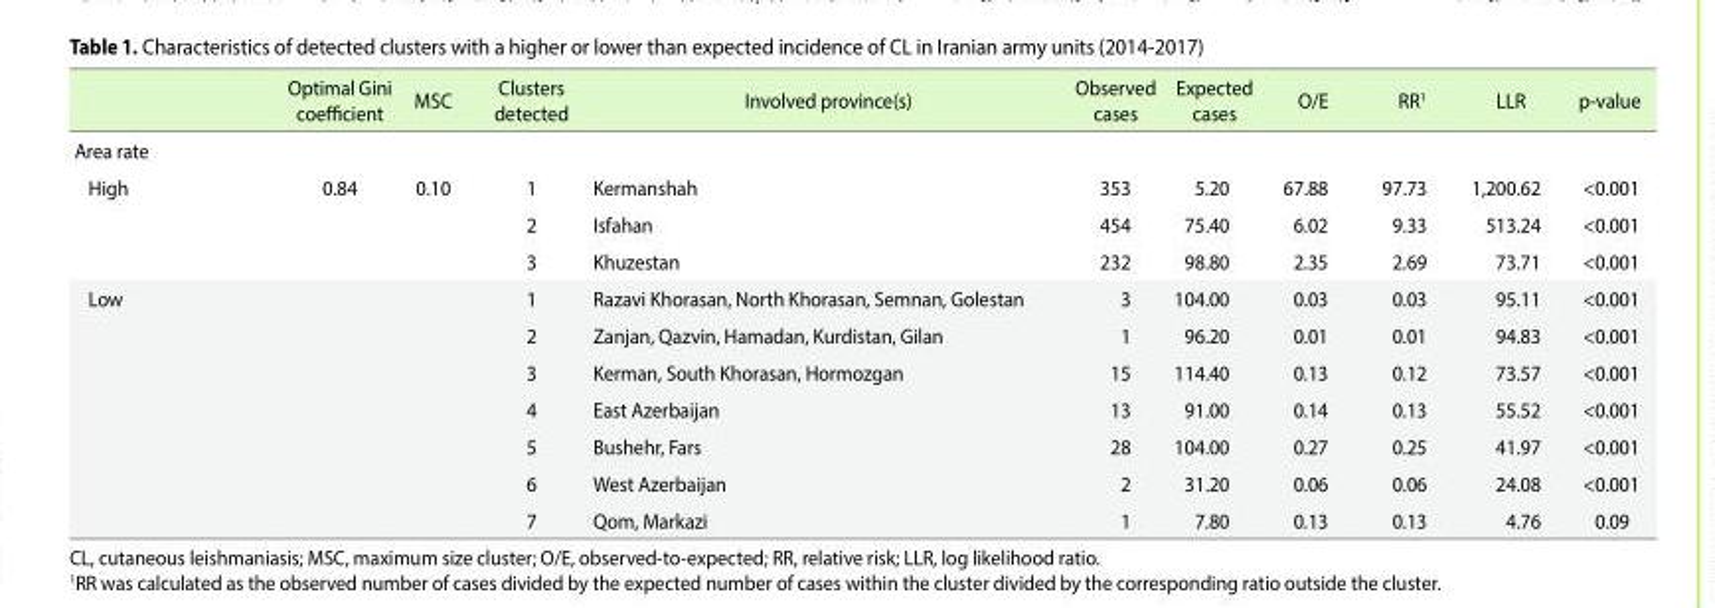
<table><thead><tr><td></td><td>Optimal Gini coefficient</td><td>MSC</td><td>Clusters detected</td><td>Involved province(s)</td><td>Observed cases</td><td>Expected cases</td><td>O/E</td><td>RR<sup>1</sup></td><td>LLR</td><td>p-value</td></tr></thead><tbody><tr><td colspan="11">Area rate</td></tr><tr><td rowspan="3">High</td><td>0.84</td><td>0.10</td><td>1</td><td>Kermanshah</td><td>353</td><td>5.20</td><td>67.88</td><td>97.73</td><td>1,200.62</td><td>&lt;0.001</td></tr><tr><td></td><td></td><td>2</td><td>Isfahan</td><td>454</td><td>75.40</td><td>6.02</td><td>9.33</td><td>513.24</td><td>&lt;0.001</td></tr><tr><td></td><td></td><td>3</td><td>Khuzestan</td><td>232</td><td>98.80</td><td>2.35</td><td>2.69</td><td>73.71</td><td>&lt;0.001</td></tr><tr><td rowspan="7">Low</td><td></td><td></td><td>1</td><td>Razavi Khorasan, North Khorasan, Semnan, Golestan</td><td>3</td><td>104.00</td><td>0.03</td><td>0.03</td><td>95.11</td><td>&lt;0.001</td></tr><tr><td></td><td></td><td>2</td><td>Zanjan, Qazvin, Hamadan, Kurdistan, Gilan</td><td>1</td><td>96.20</td><td>0.01</td><td>0.01</td><td>94.83</td><td>&lt;0.001</td></tr><tr><td></td><td></td><td>3</td><td>Kerman, South Khorasan, Hormozgan</td><td>15</td><td>114.40</td><td>0.13</td><td>0.12</td><td>73.57</td><td>&lt;0.001</td></tr><tr><td></td><td></td><td>4</td><td>East Azerbaijan</td><td>13</td><td>91.00</td><td>0.14</td><td>0.13</td><td>55.52</td><td>&lt;0.001</td></tr><tr><td></td><td></td><td>5</td><td>Bushehr, Fars</td><td>28</td><td>104.00</td><td>0.27</td><td>0.25</td><td>41.97</td><td>&lt;0.001</td></tr><tr><td></td><td></td><td>6</td><td>West Azerbaijan</td><td>2</td><td>31.20</td><td>0.06</td><td>0.06</td><td>24.08</td><td>&lt;0.001</td></tr><tr><td></td><td></td><td>7</td><td>Qom, Markazi</td><td>1</td><td>7.80</td><td>0.13</td><td>0.13</td><td>4.76</td><td>0.09</td></tr></tbody></table>